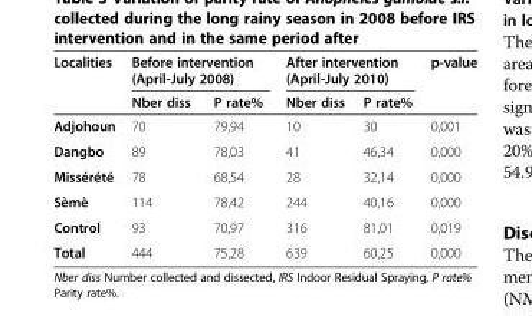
<table><thead><tr><td rowspan="2">Localities</td><td colspan="2">Before intervention (April-July 2008)</td><td colspan="2">After intervention (April-July 2010)</td><td rowspan="2">p-value</td></tr><tr><td>Nber diss</td><td>P rate%</td><td>Nber diss</td><td>P rate%</td></tr></thead><tbody><tr><td>Adjohoun</td><td>70</td><td>79,94</td><td>10</td><td>30</td><td>0,001</td></tr><tr><td>Dangbo</td><td>89</td><td>78,03</td><td>41</td><td>46,34</td><td>0,000</td></tr><tr><td>Missérété</td><td>78</td><td>68,54</td><td>28</td><td>32,14</td><td>0,000</td></tr><tr><td>Sèmè</td><td>114</td><td>78,42</td><td>244</td><td>40,16</td><td>0,000</td></tr><tr><td>Control</td><td>93</td><td>70,97</td><td>316</td><td>81,01</td><td>0,019</td></tr><tr><td>Total</td><td>444</td><td>75,28</td><td>639</td><td>60,25</td><td>0,000</td></tr></tbody></table>